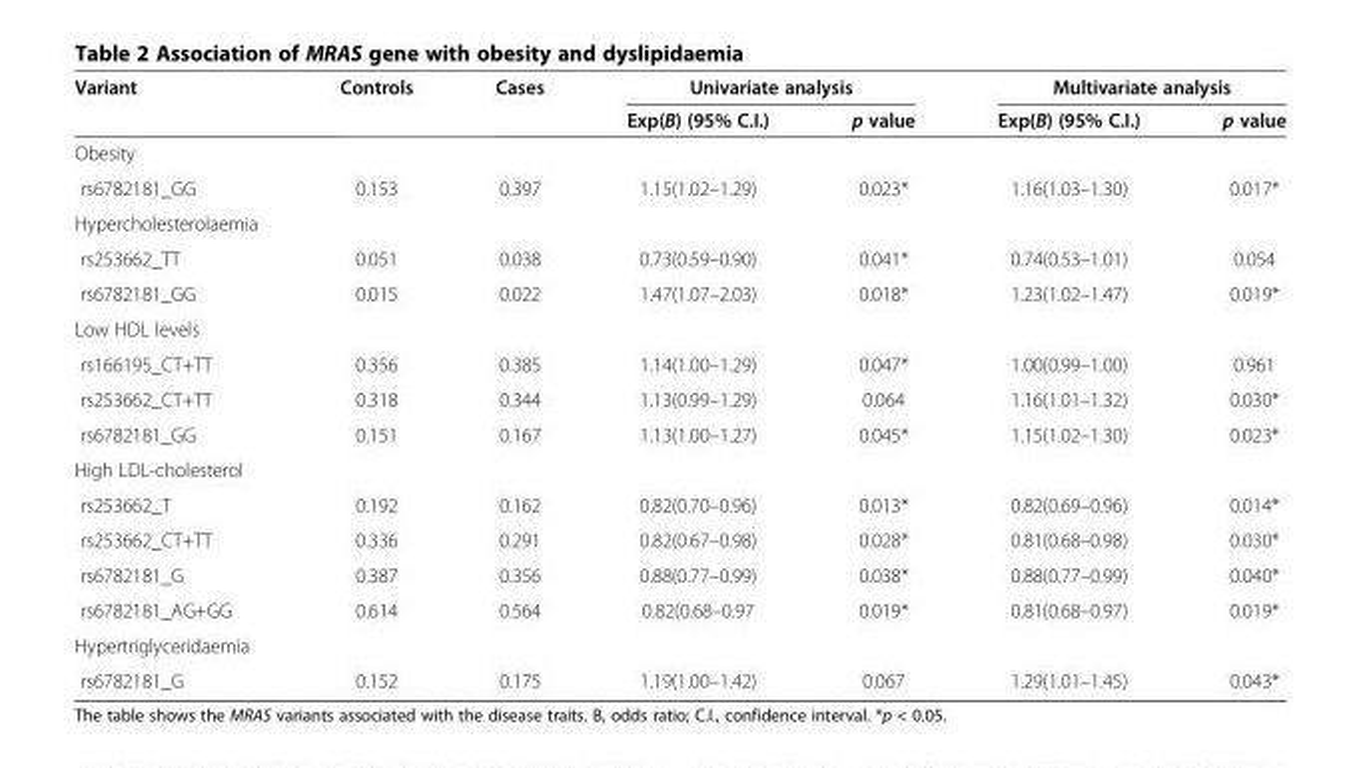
<table><thead><tr><td rowspan="2">Variant</td><td rowspan="2">Controls</td><td rowspan="2">Cases</td><td colspan="2">Univariate analysis</td><td colspan="2">Multivariate analysis</td></tr><tr><td>Exp(B) (95% C.I.)</td><td>p value</td><td>Exp(B) (95% C.I.)</td><td>p value</td></tr></thead><tbody><tr><td colspan="7">Obesity</td></tr><tr><td>rs6782181_GG</td><td>0.153</td><td>0.397</td><td>1.15(1.02–1.29)</td><td>0.023*</td><td>1.16(1.03–1.30)</td><td>0.017*</td></tr><tr><td colspan="7">Hypercholesterolaemia</td></tr><tr><td>rs253662_TT</td><td>0.051</td><td>0.038</td><td>0.73(0.59–0.90)</td><td>0.041*</td><td>0.74(0.53–1.01)</td><td>0.054</td></tr><tr><td>rs6782181_GG</td><td>0.015</td><td>0.022</td><td>1.47(1.07–2.03)</td><td>0.018*</td><td>1.23(1.02–1.47)</td><td>0.019*</td></tr><tr><td colspan="7">Low HDL levels</td></tr><tr><td>rs166195_CT+TT</td><td>0.356</td><td>0.385</td><td>1.14(1.00–1.29)</td><td>0.047*</td><td>1.00(0.99–1.00)</td><td>0.961</td></tr><tr><td>rs253662_CT+TT</td><td>0.318</td><td>0.344</td><td>1.13(0.99–1.29)</td><td>0.064</td><td>1.16(1.01–1.32)</td><td>0.030*</td></tr><tr><td>rs6782181_GG</td><td>0.151</td><td>0.167</td><td>1.13(1.00–1.27)</td><td>0.045*</td><td>1.15(1.02–1.30)</td><td>0.023*</td></tr><tr><td colspan="7">High LDL-cholesterol</td></tr><tr><td>rs253662_T</td><td>0.192</td><td>0.162</td><td>0.82(0.70–0.96)</td><td>0.013*</td><td>0.82(0.69–0.96)</td><td>0.014*</td></tr><tr><td>rs253662_CT+TT</td><td>0.336</td><td>0.291</td><td>0.82(0.67–0.98)</td><td>0.028*</td><td>0.81(0.68–0.98)</td><td>0.030*</td></tr><tr><td>rs6782181_G</td><td>0.387</td><td>0.356</td><td>0.88(0.77–0.99)</td><td>0.038*</td><td>0.88(0.77–0.99)</td><td>0.040*</td></tr><tr><td>rs6782181_AG+GG</td><td>0.614</td><td>0.564</td><td>0.82(0.68–0.97</td><td>0.019*</td><td>0.81(0.68–0.97)</td><td>0.019*</td></tr><tr><td colspan="7">Hypertriglyceridaemia</td></tr><tr><td>rs6782181_G</td><td>0.152</td><td>0.175</td><td>1.19(1.00–1.42)</td><td>0.067</td><td>1.29(1.01–1.45)</td><td>0.043*</td></tr></tbody></table>